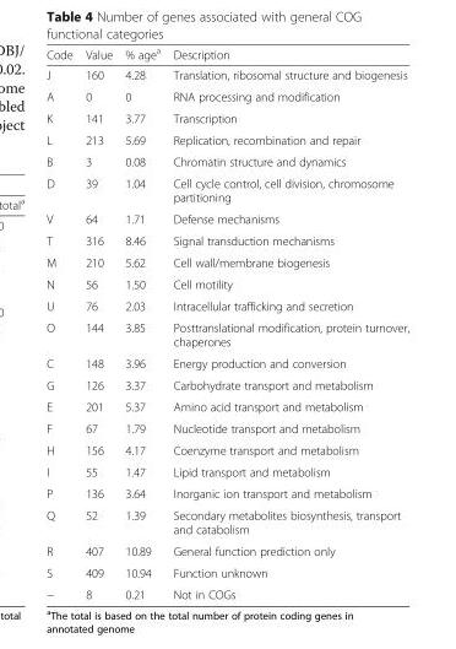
<table><thead><tr><td>Code</td><td>Value</td><td>% age<sup>a</sup></td><td>Description</td></tr></thead><tbody><tr><td>J</td><td>160</td><td>4.28</td><td>Translation, ribosomal structure and biogenesis</td></tr><tr><td>A</td><td>0</td><td>0</td><td>RNA processing and modification</td></tr><tr><td>K</td><td>141</td><td>3.77</td><td>Transcription</td></tr><tr><td>L</td><td>213</td><td>5.69</td><td>Replication, recombination and repair</td></tr><tr><td>B</td><td>3</td><td>0.08</td><td>Chromatin structure and dynamics</td></tr><tr><td>D</td><td>39</td><td>1.04</td><td>Cell cycle control, cell division, chromosome partitioning</td></tr><tr><td>V</td><td>64</td><td>1.71</td><td>Defense mechanisms</td></tr><tr><td>T</td><td>316</td><td>8.46</td><td>Signal transduction mechanisms</td></tr><tr><td>M</td><td>210</td><td>5.62</td><td>Cell wall/membrane biogenesis</td></tr><tr><td>N</td><td>56</td><td>1.50</td><td>Cell motility</td></tr><tr><td>U</td><td>76</td><td>2.03</td><td>Intracellular trafficking and secretion</td></tr><tr><td>O</td><td>144</td><td>3.85</td><td>Posttranslational modification, protein turnover, chaperones</td></tr><tr><td>C</td><td>148</td><td>3.96</td><td>Energy production and conversion</td></tr><tr><td>G</td><td>126</td><td>3.37</td><td>Carbohydrate transport and metabolism</td></tr><tr><td>E</td><td>201</td><td>5.37</td><td>Amino acid transport and metabolism</td></tr><tr><td>F</td><td>67</td><td>1.79</td><td>Nucleotide transport and metabolism</td></tr><tr><td>H</td><td>156</td><td>4.17</td><td>Coenzyme transport and metabolism</td></tr><tr><td>I</td><td>55</td><td>1.47</td><td>Lipid transport and metabolism</td></tr><tr><td>P</td><td>136</td><td>3.64</td><td>Inorganic ion transport and metabolism</td></tr><tr><td>Q</td><td>52</td><td>1.39</td><td>Secondary metabolites biosynthesis, transport and catabolism</td></tr><tr><td>R</td><td>407</td><td>10.89</td><td>General function prediction only</td></tr><tr><td>S</td><td>409</td><td>10.94</td><td>Function unknown</td></tr><tr><td>−</td><td>8</td><td>0.21</td><td>Not in COGs</td></tr></tbody></table>